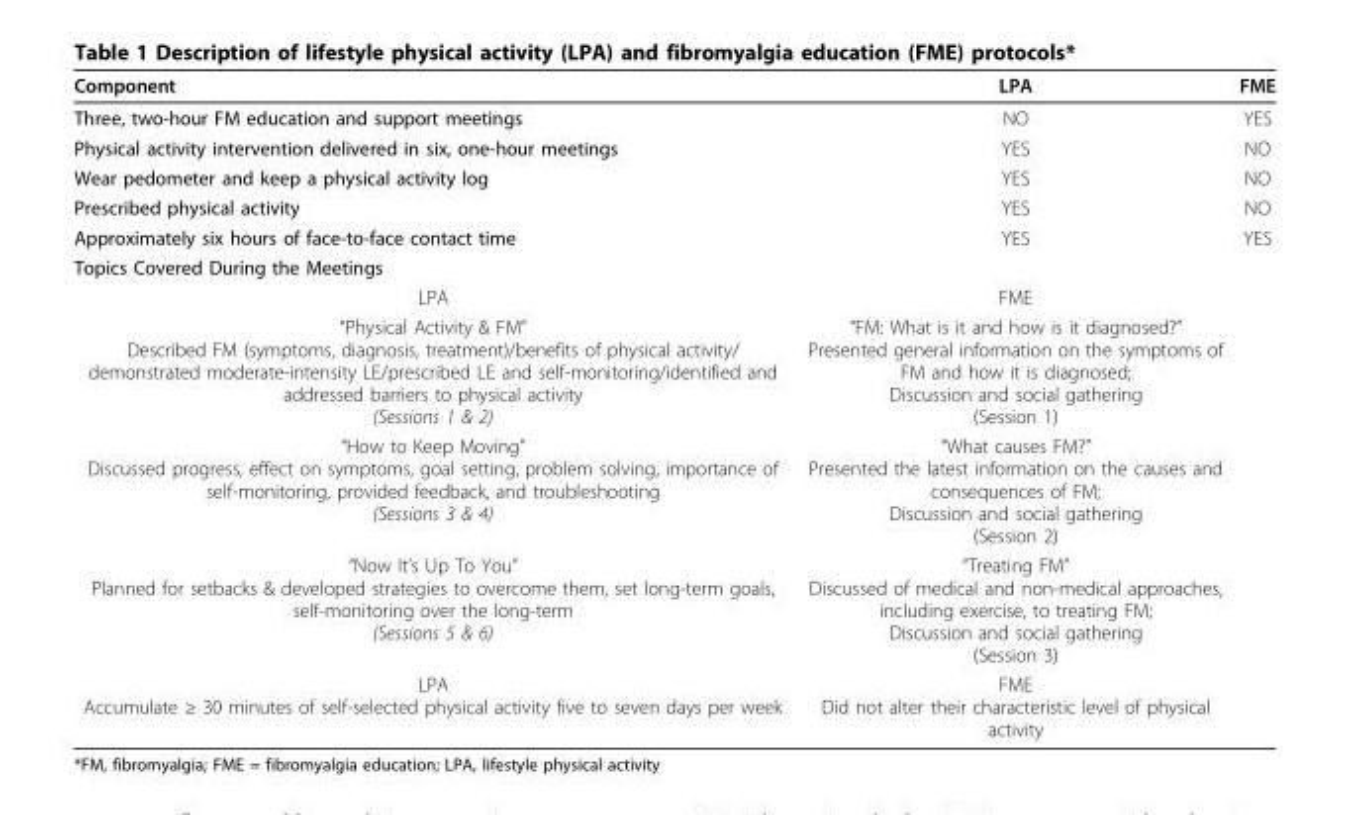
<table><thead><tr><td>Component</td><td>LPA</td><td>FME</td></tr></thead><tbody><tr><td>Three, two-hour FM education and support meetings</td><td>NO</td><td>YES</td></tr><tr><td>Physical activity intervention delivered in six, one-hour meetings</td><td>YES</td><td>NO</td></tr><tr><td>Wear pedometer and keep a physical activity log</td><td>YES</td><td>NO</td></tr><tr><td>Prescribed physical activity</td><td>YES</td><td>NO</td></tr><tr><td>Approximately six hours of face-to-face contact time</td><td>YES</td><td>YES</td></tr><tr><td colspan="3">Topics Covered During the Meetings</td></tr><tr><td>LPA</td><td>FME</td><td></td></tr><tr><td>“Physical Activity &amp; FM” Described FM (symptoms, diagnosis, treatment)/benefits of physical activity/ demonstrated moderate-intensity LE/prescribed LE and self-monitoring/identified and addressed barriers to physical activity (Sessions 1 &amp; 2)</td><td>“FM: What is it and how is it diagnosed?” Presented general information on the symptoms of FM and how it is diagnosed; Discussion and social gathering (Session 1)</td><td></td></tr><tr><td>“How to Keep Moving” Discussed progress, effect on symptoms, goal setting, problem solving, importance of self-monitoring, provided feedback, and troubleshooting (Sessions 3 &amp; 4)</td><td>“What causes FM?” Presented the latest information on the causes and consequences of FM; Discussion and social gathering (Session 2)</td><td></td></tr><tr><td>“Now It’s Up To You” Planned for setbacks &amp; developed strategies to overcome them, set long-term goals, self-monitoring over the long-term (Sessions 5 &amp; 6)</td><td>“Treating FM” Discussed of medical and non-medical approaches, including exercise, to treating FM; Discussion and social gathering (Session 3)</td><td></td></tr><tr><td>LPA Accumulate ≥ 30 minutes of self-selected physical activity five to seven days per week</td><td>FME Did not alter their characteristic level of physical activity</td><td></td></tr></tbody></table>